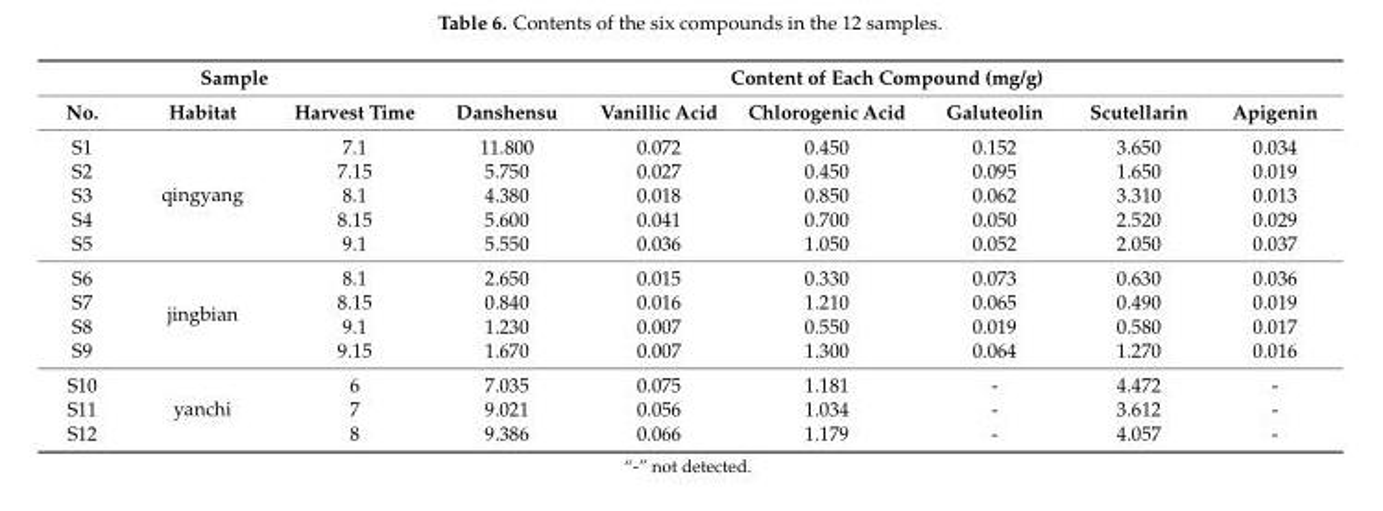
<table><thead><tr><td colspan="3">Sample</td><td colspan="6">Content of Each Compound (mg/g)</td></tr><tr><td>No.</td><td>Habitat</td><td>Harvest Time</td><td>Danshensu</td><td>Vanillic Acid</td><td>Chlorogenic Acid</td><td>Galuteolin</td><td>Scutellarin</td><td>Apigenin</td></tr></thead><tbody><tr><td>S1</td><td rowspan="5">qingyang</td><td>7.1</td><td>11.800</td><td>0.072</td><td>0.450</td><td>0.152</td><td>3.650</td><td>0.034</td></tr><tr><td>S2</td><td>7.15</td><td>5.750</td><td>0.027</td><td>0.450</td><td>0.095</td><td>1.650</td><td>0.019</td></tr><tr><td>S3</td><td>8.1</td><td>4.380</td><td>0.018</td><td>0.850</td><td>0.062</td><td>3.310</td><td>0.013</td></tr><tr><td>S4</td><td>8.15</td><td>5.600</td><td>0.041</td><td>0.700</td><td>0.050</td><td>2.520</td><td>0.029</td></tr><tr><td>S5</td><td>9.1</td><td>5.550</td><td>0.036</td><td>1.050</td><td>0.052</td><td>2.050</td><td>0.037</td></tr><tr><td>S6</td><td rowspan="4">jingbian</td><td>8.1</td><td>2.650</td><td>0.015</td><td>0.330</td><td>0.073</td><td>0.630</td><td>0.036</td></tr><tr><td>S7</td><td>8.15</td><td>0.840</td><td>0.016</td><td>1.210</td><td>0.065</td><td>0.490</td><td>0.019</td></tr><tr><td>S8</td><td>9.1</td><td>1.230</td><td>0.007</td><td>0.550</td><td>0.019</td><td>0.580</td><td>0.017</td></tr><tr><td>S9</td><td>9.15</td><td>1.670</td><td>0.007</td><td>1.300</td><td>0.064</td><td>1.270</td><td>0.016</td></tr><tr><td>S10</td><td rowspan="3">yanchi</td><td>6</td><td>7.035</td><td>0.075</td><td>1.181</td><td>-</td><td>4.472</td><td>-</td></tr><tr><td>S11</td><td>7</td><td>9.021</td><td>0.056</td><td>1.034</td><td>-</td><td>3.612</td><td>-</td></tr><tr><td>S12</td><td>8</td><td>9.386</td><td>0.066</td><td>1.179</td><td>-</td><td>4.057</td><td>-</td></tr></tbody></table>